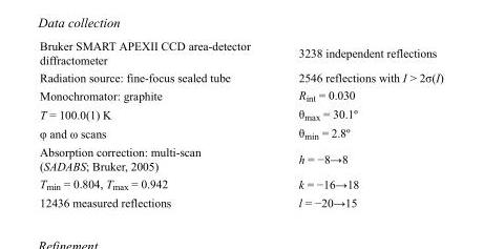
<table><tbody><tr><td>Bruker SMART APEXII CCD area-detector diffractometer</td><td>3238 independent reflections</td></tr><tr><td>Radiation source: fine-focus sealed tube</td><td>2546 reflections with I &gt; 2σ(I)</td></tr><tr><td>Monochromator: graphite</td><td>R<sub>int</sub> = 0.030</td></tr><tr><td>T = 100.0(1) K</td><td>θ<sub>max</sub> = 30.1º</td></tr><tr><td>φ and ω scans</td><td>θ<sub>min</sub> = 2.8º</td></tr><tr><td>Absorption correction: multi-scan (SADABS; Bruker, 2005)</td><td>h = −8→8</td></tr><tr><td>T<sub>min</sub> = 0.804, T<sub>max</sub> = 0.942</td><td>k = −16→18</td></tr><tr><td>12436 measured reflections</td><td>l = −20→15</td></tr></tbody></table>